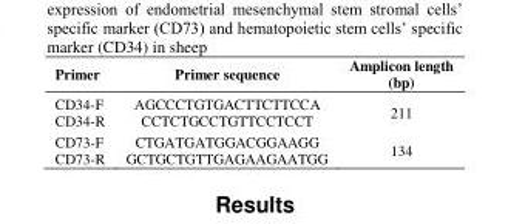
<table><thead><tr><td>Primer</td><td>Primer sequence</td><td>Amplicon length (bp)</td></tr></thead><tbody><tr><td>CD34-F CD34-R</td><td>AGCCCTGTGACTTCTTCCA CCTCTGCCTGTTCCTCCT</td><td>211</td></tr><tr><td>CD73-F CD73-R</td><td>CTGATGATGGACGGAAGG GCTGCTGTTGAGAAGAATGG</td><td>134</td></tr></tbody></table>